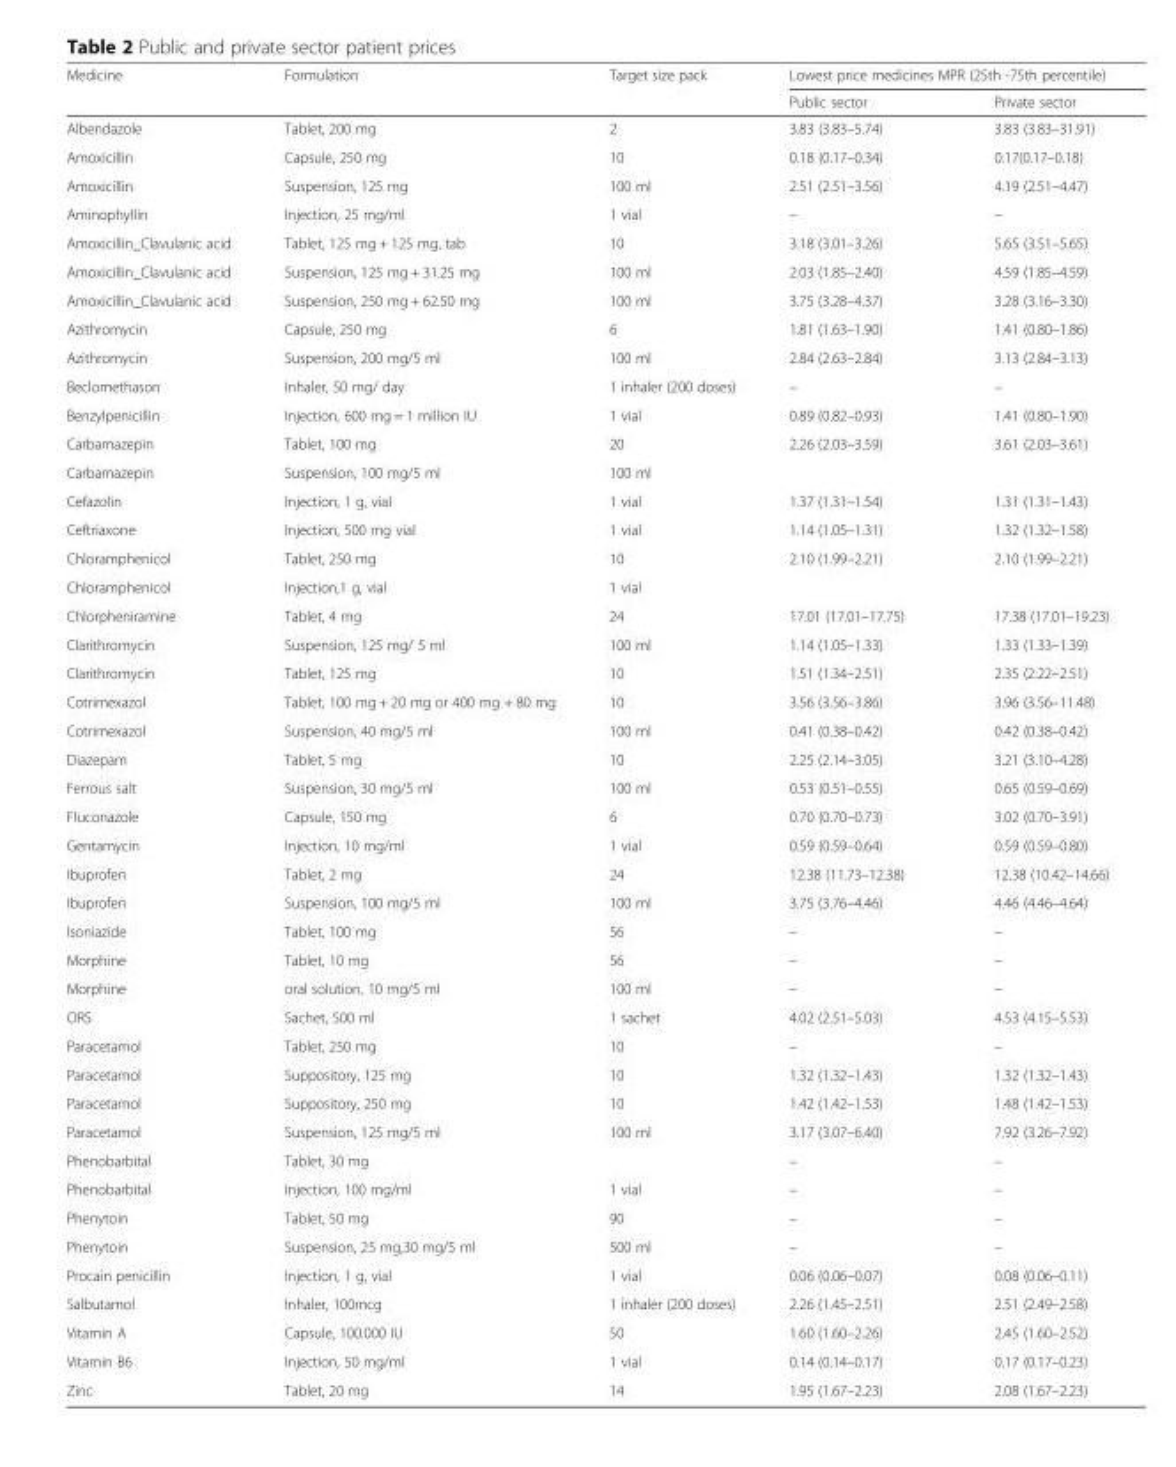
<table><thead><tr><td rowspan="2">Medicine</td><td rowspan="2">Formulation</td><td rowspan="2">Target size pack</td><td colspan="2">Lowest price medicines MPR (25th -75th percentile)</td></tr><tr><td>Public sector</td><td>Private sector</td></tr></thead><tbody><tr><td>Albendazole</td><td>Tablet, 200 mg</td><td>2</td><td>3.83 (3.83–5.74)</td><td>3.83 (3.83–31.91)</td></tr><tr><td>Amoxicillin</td><td>Capsule, 250 mg</td><td>10</td><td>0.18 (0.17–0.34)</td><td>0.17(0.17–0.18)</td></tr><tr><td>Amoxicillin</td><td>Suspension, 125 mg</td><td>100 ml</td><td>2.51 (2.51–3.56)</td><td>4.19 (2.51–4.47)</td></tr><tr><td>Aminophyllin</td><td>Injection, 25 mg/ml</td><td>1 vial</td><td>–</td><td>–</td></tr><tr><td>Amoxicillin_Clavulanic acid</td><td>Tablet, 125 mg + 125 mg, tab</td><td>10</td><td>3.18 (3.01–3.26)</td><td>5.65 (3.51–5.65)</td></tr><tr><td>Amoxicillin_Clavulanic acid</td><td>Suspension, 125 mg + 31.25 mg</td><td>100 ml</td><td>2.03 (1.85–2.40)</td><td>4.59 (1.85–4.59)</td></tr><tr><td>Amoxicillin_Clavulanic acid</td><td>Suspension, 250 mg + 62.50 mg</td><td>100 ml</td><td>3.75 (3.28–4.37)</td><td>3.28 (3.16–3.30)</td></tr><tr><td>Azithromycin</td><td>Capsule, 250 mg</td><td>6</td><td>1.81 (1.63–1.90)</td><td>1.41 (0.80–1.86)</td></tr><tr><td>Azithromycin</td><td>Suspension, 200 mg/5 ml</td><td>100 ml</td><td>2.84 (2.63–2.84)</td><td>3.13 (2.84–3.13)</td></tr><tr><td>Beclomethason</td><td>Inhaler, 50 mg/ day</td><td>1 inhaler (200 doses)</td><td>–</td><td>–</td></tr><tr><td>Benzylpenicillin</td><td>Injection, 600 mg = 1 million IU</td><td>1 vial</td><td>0.89 (0.82–0.93)</td><td>1.41 (0.80–1.90)</td></tr><tr><td>Carbamazepin</td><td>Tablet, 100 mg</td><td>20</td><td>2.26 (2.03–3.59)</td><td>3.61 (2.03–3.61)</td></tr><tr><td>Carbamazepin</td><td>Suspension, 100 mg/5 ml</td><td>100 ml</td><td></td><td></td></tr><tr><td>Cefazolin</td><td>Injection, 1 g, vial</td><td>1 vial</td><td>1.37 (1.31–1.54)</td><td>1.31 (1.31–1.43)</td></tr><tr><td>Ceftriaxone</td><td>Injection, 500 mg vial</td><td>1 vial</td><td>1.14 (1.05–1.31)</td><td>1.32 (1.32–1.58)</td></tr><tr><td>Chloramphenicol</td><td>Tablet, 250 mg</td><td>10</td><td>2.10 (1.99–2.21)</td><td>2.10 (1.99–2.21)</td></tr><tr><td>Chloramphenicol</td><td>Injection,1 g, vial</td><td>1 vial</td><td></td><td></td></tr><tr><td>Chlorpheniramine</td><td>Tablet, 4 mg</td><td>24</td><td>17.01 (17.01–17.75)</td><td>17.38 (17.01–19.23)</td></tr><tr><td>Clarithromycin</td><td>Suspension, 125 mg/ 5 ml</td><td>100 ml</td><td>1.14 (1.05–1.33)</td><td>1.33 (1.33–1.39)</td></tr><tr><td>Clarithromycin</td><td>Tablet, 125 mg</td><td>10</td><td>1.51 (1.34–2.51)</td><td>2.35 (2.22–2.51)</td></tr><tr><td>Cotrimexazol</td><td>Tablet, 100 mg + 20 mg or 400 mg + 80 mg</td><td>10</td><td>3.56 (3.56–3.86)</td><td>3.96 (3.56–11.48)</td></tr><tr><td>Cotrimexazol</td><td>Suspension, 40 mg/5 ml</td><td>100 ml</td><td>0.41 (0.38–0.42)</td><td>0.42 (0.38–0.42)</td></tr><tr><td>Diazepam</td><td>Tablet, 5 mg</td><td>10</td><td>2.25 (2.14–3.05)</td><td>3.21 (3.10–4.28)</td></tr><tr><td>Ferrous salt</td><td>Suspension, 30 mg/5 ml</td><td>100 ml</td><td>0.53 (0.51–0.55)</td><td>0.65 (0.59–0.69)</td></tr><tr><td>Fluconazole</td><td>Capsule, 150 mg</td><td>6</td><td>0.70 (0.70–0.73)</td><td>3.02 (0.70–3.91)</td></tr><tr><td>Gentamycin</td><td>Injection, 10 mg/ml</td><td>1 vial</td><td>0.59 (0.59–0.64)</td><td>0.59 (0.59–0.80)</td></tr><tr><td>Ibuprofen</td><td>Tablet, 2 mg</td><td>24</td><td>12.38 (11.73–12.38)</td><td>12.38 (10.42–14.66)</td></tr><tr><td>Ibuprofen</td><td>Suspension, 100 mg/5 ml</td><td>100 ml</td><td>3.75 (3.76–4.46)</td><td>4.46 (4.46–4.64)</td></tr><tr><td>Isoniazide</td><td>Tablet, 100 mg</td><td>56</td><td>–</td><td>–</td></tr><tr><td>Morphine</td><td>Tablet, 10 mg</td><td>56</td><td>–</td><td>–</td></tr><tr><td>Morphine</td><td>oral solution, 10 mg/5 ml</td><td>100 ml</td><td>–</td><td>–</td></tr><tr><td>ORS</td><td>Sachet, 500 ml</td><td>1 sachet</td><td>4.02 (2.51–5.03)</td><td>4.53 (4.15–5.53)</td></tr><tr><td>Paracetamol</td><td>Tablet, 250 mg</td><td>10</td><td>–</td><td>–</td></tr><tr><td>Paracetamol</td><td>Suppository, 125 mg</td><td>10</td><td>1.32 (1.32–1.43)</td><td>1.32 (1.32–1.43)</td></tr><tr><td>Paracetamol</td><td>Suppository, 250 mg</td><td>10</td><td>1.42 (1.42–1.53)</td><td>1.48 (1.42–1.53)</td></tr><tr><td>Paracetamol</td><td>Suspension, 125 mg/5 ml</td><td>100 ml</td><td>3.17 (3.07–6.40)</td><td>7.92 (3.26–7.92)</td></tr><tr><td>Phenobarbital</td><td>Tablet, 30 mg</td><td></td><td>–</td><td>–</td></tr><tr><td>Phenobarbital</td><td>Injection, 100 mg/ml</td><td>1 vial</td><td>–</td><td>–</td></tr><tr><td>Phenytoin</td><td>Tablet, 50 mg</td><td>90</td><td>–</td><td>–</td></tr><tr><td>Phenytoin</td><td>Suspension, 25 mg,30 mg/5 ml</td><td>500 ml</td><td>–</td><td>–</td></tr><tr><td>Procain penicillin</td><td>Injection, 1 g, vial</td><td>1 vial</td><td>0.06 (0.06–0.07)</td><td>0.08 (0.06–0.11)</td></tr><tr><td>Salbutamol</td><td>Inhaler, 100mcg</td><td>1 inhaler (200 doses)</td><td>2.26 (1.45–2.51)</td><td>2.51 (2.49–2.58)</td></tr><tr><td>Vitamin A</td><td>Capsule, 100.000 IU</td><td>50</td><td>1.60 (1.60–2.26)</td><td>2.45 (1.60–2.52)</td></tr><tr><td>Vitamin B6</td><td>Injection, 50 mg/ml</td><td>1 vial</td><td>0.14 (0.14–0.17)</td><td>0.17 (0.17–0.23)</td></tr><tr><td>Zinc</td><td>Tablet, 20 mg</td><td>14</td><td>1.95 (1.67–2.23)</td><td>2.08 (1.67–2.23)</td></tr></tbody></table>